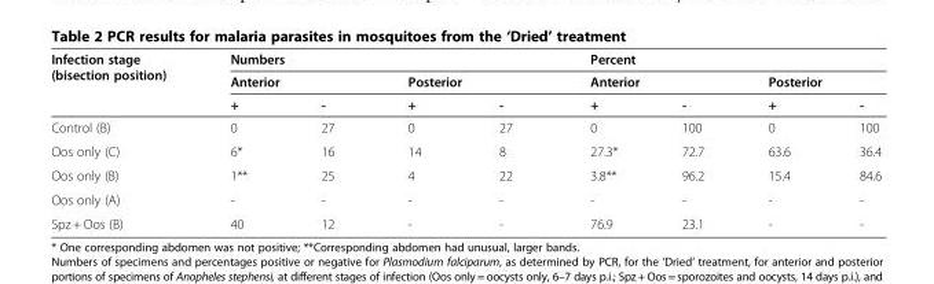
<table><thead><tr><td rowspan="3">Infection stage (bisection position)</td><td colspan="4">Numbers</td><td colspan="4">Percent</td></tr><tr><td colspan="2">Anterior</td><td colspan="2">Posterior</td><td colspan="2">Anterior</td><td colspan="2">Posterior</td></tr><tr><td>+</td><td>-</td><td>+</td><td>-</td><td>+</td><td>-</td><td>+</td><td>-</td></tr></thead><tbody><tr><td>Control (B)</td><td>0</td><td>27</td><td>0</td><td>27</td><td>0</td><td>100</td><td>0</td><td>100</td></tr><tr><td>Oos only (C)</td><td>6*</td><td>16</td><td>14</td><td>8</td><td>27.3*</td><td>72.7</td><td>63.6</td><td>36.4</td></tr><tr><td>Oos only (B)</td><td>1**</td><td>25</td><td>4</td><td>22</td><td>3.8**</td><td>96.2</td><td>15.4</td><td>84.6</td></tr><tr><td>Oos only (A)</td><td>-</td><td>-</td><td>-</td><td>-</td><td>-</td><td>-</td><td>-</td><td>-</td></tr><tr><td>Spz + Oos (B)</td><td>40</td><td>12</td><td>-</td><td>-</td><td>76.9</td><td>23.1</td><td>-</td><td>-</td></tr></tbody></table>